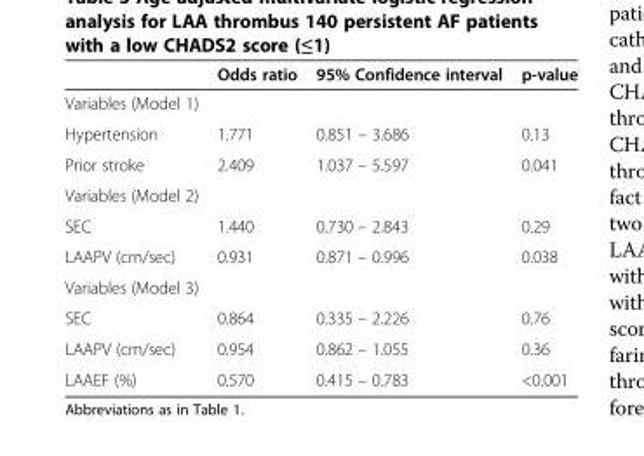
<table><thead><tr><td></td><td>Odds ratio</td><td>95% Confidence interval</td><td>p-value</td></tr></thead><tbody><tr><td colspan="4">Variables (Model 1)</td></tr><tr><td>Hypertension</td><td>1.771</td><td>0.851 – 3.686</td><td>0.13</td></tr><tr><td>Prior stroke</td><td>2.409</td><td>1.037 – 5.597</td><td>0.041</td></tr><tr><td colspan="4">Variables (Model 2)</td></tr><tr><td>SEC</td><td>1.440</td><td>0.730 – 2.843</td><td>0.29</td></tr><tr><td>LAAPV (cm/sec)</td><td>0.931</td><td>0.871 – 0.996</td><td>0.038</td></tr><tr><td colspan="4">Variables (Model 3)</td></tr><tr><td>SEC</td><td>0.864</td><td>0.335 – 2.226</td><td>0.76</td></tr><tr><td>LAAPV (cm/sec)</td><td>0.954</td><td>0.862 – 1.055</td><td>0.36</td></tr><tr><td>LAAEF (%)</td><td>0.570</td><td>0.415 – 0.783</td><td>&lt;0.001</td></tr></tbody></table>